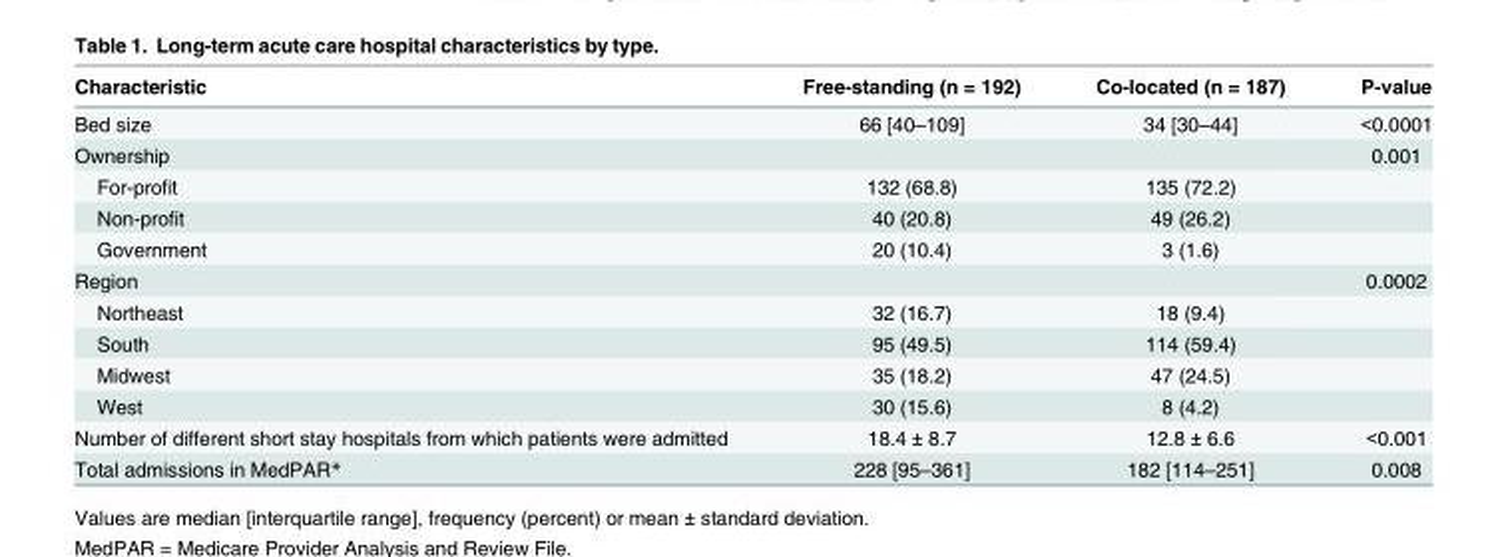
<table><thead><tr><td>Characteristic</td><td>Free-standing (n = 192)</td><td>Co-located (n = 187)</td><td>P-value</td></tr></thead><tbody><tr><td>Bed size</td><td>66 [40–109]</td><td>34 [30–44]</td><td>&lt;0.0001</td></tr><tr><td>Ownership</td><td></td><td></td><td>0.001</td></tr><tr><td>For-profit</td><td>132 (68.8)</td><td>135 (72.2)</td><td></td></tr><tr><td>Non-profit</td><td>40 (20.8)</td><td>49 (26.2)</td><td></td></tr><tr><td>Government</td><td>20 (10.4)</td><td>3 (1.6)</td><td></td></tr><tr><td>Region</td><td></td><td></td><td>0.0002</td></tr><tr><td>Northeast</td><td>32 (16.7)</td><td>18 (9.4)</td><td></td></tr><tr><td>South</td><td>95 (49.5)</td><td>114 (59.4)</td><td></td></tr><tr><td>Midwest</td><td>35 (18.2)</td><td>47 (24.5)</td><td></td></tr><tr><td>West</td><td>30 (15.6)</td><td>8 (4.2)</td><td></td></tr><tr><td>Number of different short stay hospitals from which patients were admitted</td><td>18.4 ± 8.7</td><td>12.8 ± 6.6</td><td>&lt;0.001</td></tr><tr><td>Total admissions in MedPAR*</td><td>228 [95–361]</td><td>182 [114–251]</td><td>0.008</td></tr></tbody></table>